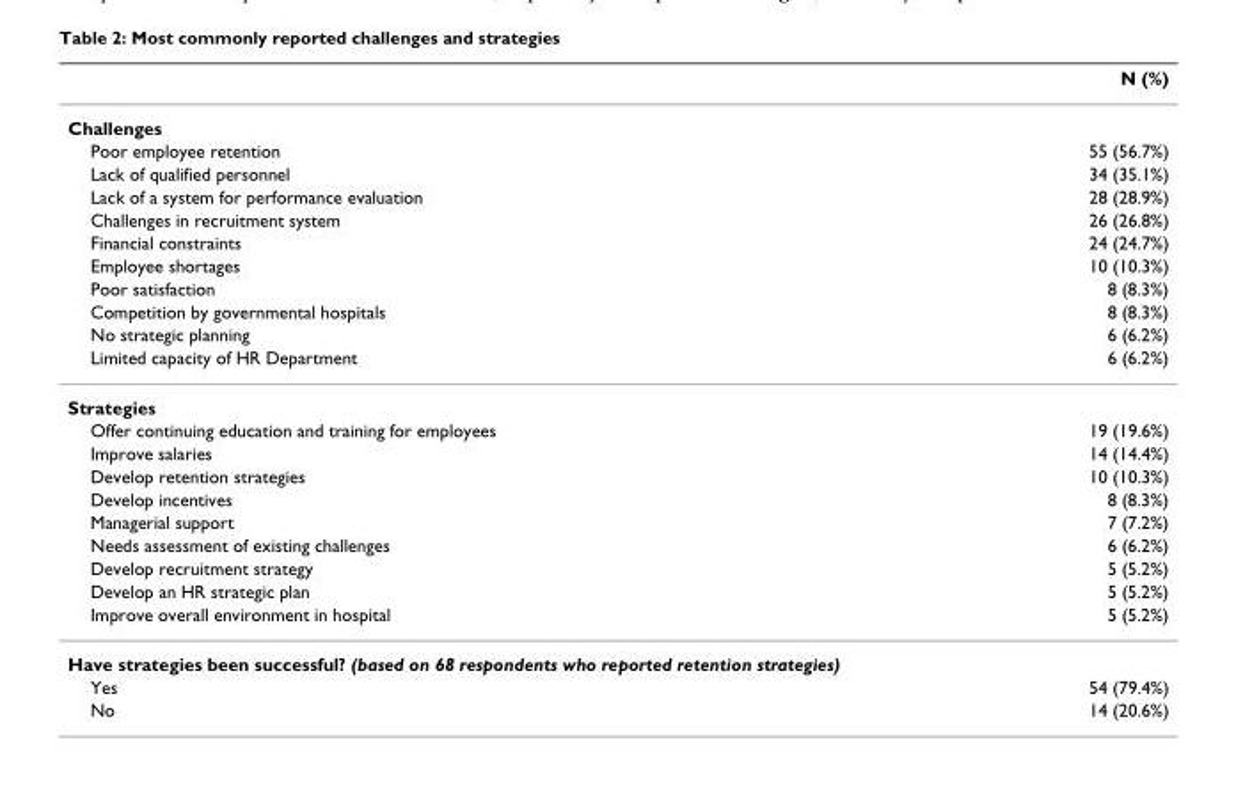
<table><thead><tr><td></td><td>N (%)</td></tr></thead><tbody><tr><td colspan="2">Challenges</td></tr><tr><td>Poor employee retention</td><td>55 (56.7%)</td></tr><tr><td>Lack of qualified personnel</td><td>34 (35.1%)</td></tr><tr><td>Lack of a system for performance evaluation</td><td>28 (28.9%)</td></tr><tr><td>Challenges in recruitment system</td><td>26 (26.8%)</td></tr><tr><td>Financial constraints</td><td>24 (24.7%)</td></tr><tr><td>Employee shortages</td><td>10 (10.3%)</td></tr><tr><td>Poor satisfaction</td><td>8 (8.3%)</td></tr><tr><td>Competition by governmental hospitals</td><td>8 (8.3%)</td></tr><tr><td>No strategic planning</td><td>6 (6.2%)</td></tr><tr><td>Limited capacity of HR Department</td><td>6 (6.2%)</td></tr><tr><td colspan="2">Strategies</td></tr><tr><td>Offer continuing education and training for employees</td><td>19 (19.6%)</td></tr><tr><td>Improve salaries</td><td>14 (14.4%)</td></tr><tr><td>Develop retention strategies</td><td>10 (10.3%)</td></tr><tr><td>Develop incentives</td><td>8 (8.3%)</td></tr><tr><td>Managerial support</td><td>7 (7.2%)</td></tr><tr><td>Needs assessment of existing challenges</td><td>6 (6.2%)</td></tr><tr><td>Develop recruitment strategy</td><td>5 (5.2%)</td></tr><tr><td>Develop an HR strategic plan</td><td>5 (5.2%)</td></tr><tr><td>Improve overall environment in hospital</td><td>5 (5.2%)</td></tr><tr><td colspan="2">Have strategies been successful? (based on 68 respondents who reported retention strategies)</td></tr><tr><td>Yes</td><td>54 (79.4%)</td></tr><tr><td>No</td><td>14 (20.6%)</td></tr></tbody></table>